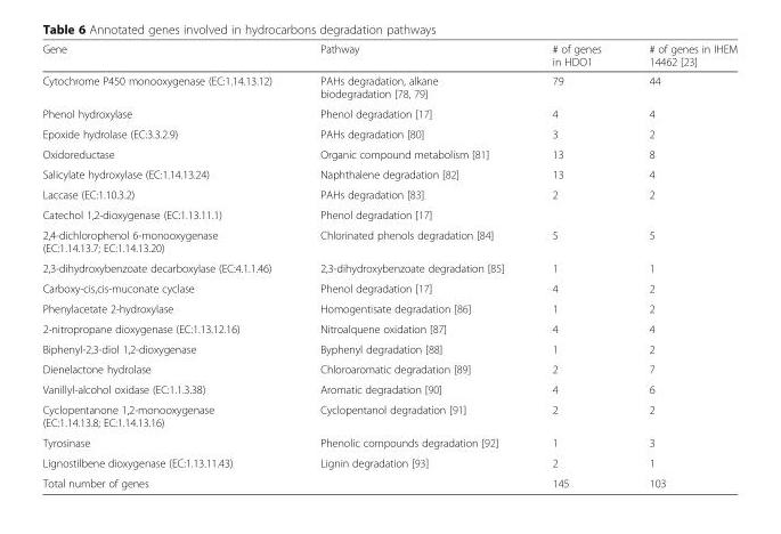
<table><thead><tr><td>Gene</td><td>Pathway</td><td># of genes in HDO1</td><td># of genes in IHEM 14462 [23]</td></tr></thead><tbody><tr><td>Cytochrome P450 monooxygenase (EC:1.14.13.12)</td><td>PAHs degradation, alkane biodegradation [78, 79]</td><td>79</td><td>44</td></tr><tr><td>Phenol hydroxylase</td><td>Phenol degradation [17]</td><td>4</td><td>4</td></tr><tr><td>Epoxide hydrolase (EC:3.3.2.9)</td><td>PAHs degradation [80]</td><td>3</td><td>2</td></tr><tr><td>Oxidoreductase</td><td>Organic compound metabolism [81]</td><td>13</td><td>8</td></tr><tr><td>Salicylate hydroxylase (EC:1.14.13.24)</td><td>Naphthalene degradation [82]</td><td>13</td><td>4</td></tr><tr><td>Laccase (EC:1.10.3.2)</td><td>PAHs degradation [83]</td><td>2</td><td>2</td></tr><tr><td>Catechol 1,2-dioxygenase (EC:1.13.11.1)</td><td>Phenol degradation [17]</td><td></td><td></td></tr><tr><td>2,4-dichlorophenol 6-monooxygenase (EC:1.14.13.7; EC:1.14.13.20)</td><td>Chlorinated phenols degradation [84]</td><td>5</td><td>5</td></tr><tr><td>2,3-dihydroxybenzoate decarboxylase (EC:4.1.1.46)</td><td>2,3-dihydroxybenzoate degradation [85]</td><td>1</td><td>1</td></tr><tr><td>Carboxy-cis,cis-muconate cyclase</td><td>Phenol degradation [17]</td><td>4</td><td>2</td></tr><tr><td>Phenylacetate 2-hydroxylase</td><td>Homogentisate degradation [86]</td><td>1</td><td>2</td></tr><tr><td>2-nitropropane dioxygenase (EC:1.13.12.16)</td><td>Nitroalquene oxidation [87]</td><td>4</td><td>4</td></tr><tr><td>Biphenyl-2,3-diol 1,2-dioxygenase</td><td>Byphenyl degradation [88]</td><td>1</td><td>2</td></tr><tr><td>Dienelactone hydrolase</td><td>Chloroaromatic degradation [89]</td><td>2</td><td>7</td></tr><tr><td>Vanillyl-alcohol oxidase (EC:1.1.3.38)</td><td>Aromatic degradation [90]</td><td>4</td><td>6</td></tr><tr><td>Cyclopentanone 1,2-monooxygenase (EC:1.14.13.8; EC:1.14.13.16)</td><td>Cyclopentanol degradation [91]</td><td>2</td><td>2</td></tr><tr><td>Tyrosinase</td><td>Phenolic compounds degradation [92]</td><td>1</td><td>3</td></tr><tr><td>Lignostilbene dioxygenase (EC:1.13.11.43)</td><td>Lignin degradation [93]</td><td>2</td><td>1</td></tr><tr><td>Total number of genes</td><td></td><td>145</td><td>103</td></tr></tbody></table>